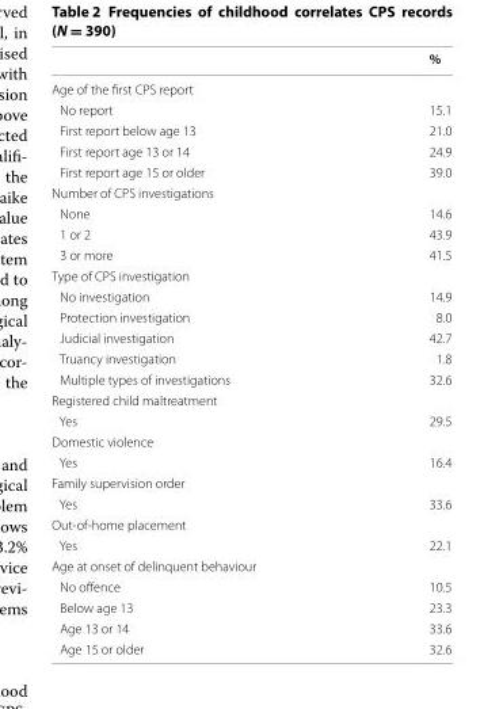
<table><thead><tr><td></td><td>%</td></tr></thead><tbody><tr><td colspan="2">Age of the first CPS report</td></tr><tr><td>No report</td><td>15.1</td></tr><tr><td>First report below age 13</td><td>21.0</td></tr><tr><td>First report age 13 or 14</td><td>24.9</td></tr><tr><td>First report age 15 or older</td><td>39.0</td></tr><tr><td colspan="2">Number of CPS investigations</td></tr><tr><td>None</td><td>14.6</td></tr><tr><td>1 or 2</td><td>43.9</td></tr><tr><td>3 or more</td><td>41.5</td></tr><tr><td colspan="2">Type of CPS investigation</td></tr><tr><td>No investigation</td><td>14.9</td></tr><tr><td>Protection investigation</td><td>8.0</td></tr><tr><td>Judicial investigation</td><td>42.7</td></tr><tr><td>Truancy investigation</td><td>1.8</td></tr><tr><td>Multiple types of investigations</td><td>32.6</td></tr><tr><td colspan="2">Registered child maltreatment</td></tr><tr><td>Yes</td><td>29.5</td></tr><tr><td colspan="2">Domestic violence</td></tr><tr><td>Yes</td><td>16.4</td></tr><tr><td colspan="2">Family supervision order</td></tr><tr><td>Yes</td><td>33.6</td></tr><tr><td colspan="2">Out‑of‑home placement</td></tr><tr><td>Yes</td><td>22.1</td></tr><tr><td colspan="2">Age at onset of delinquent behaviour</td></tr><tr><td>No offence</td><td>10.5</td></tr><tr><td>Below age 13</td><td>23.3</td></tr><tr><td>Age 13 or 14</td><td>33.6</td></tr><tr><td>Age 15 or older</td><td>32.6</td></tr></tbody></table>